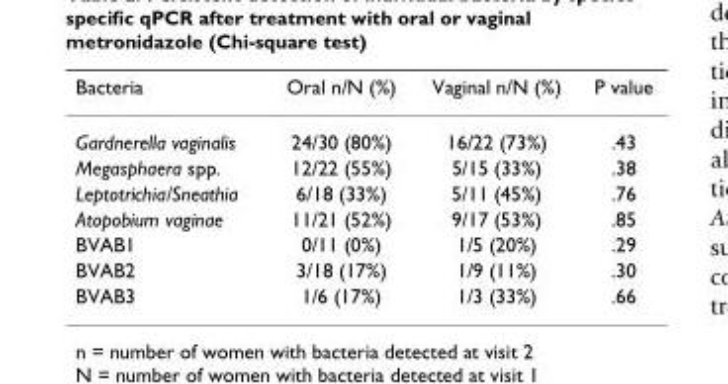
<table><thead><tr><td>Bacteria</td><td>Oral n/N (%)</td><td>Vaginal n/N (%)</td><td>P value</td></tr></thead><tbody><tr><td>Gardnerella vaginalis</td><td>24/30 (80%)</td><td>16/22 (73%)</td><td>.43</td></tr><tr><td>Megasphaera spp.</td><td>12/22 (55%)</td><td>5/15 (33%)</td><td>.38</td></tr><tr><td>Leptotrichia/Sneathia</td><td>6/18 (33%)</td><td>5/11 (45%)</td><td>.76</td></tr><tr><td>Atopobium vaginae</td><td>11/21 (52%)</td><td>9/17 (53%)</td><td>.85</td></tr><tr><td>BVAB1</td><td>0/11 (0%)</td><td>1/5 (20%)</td><td>.29</td></tr><tr><td>BVAB2</td><td>3/18 (17%)</td><td>1/9 (11%)</td><td>.30</td></tr><tr><td>BVAB3</td><td>1/6 (17%)</td><td>1/3 (33%)</td><td>.66</td></tr></tbody></table>